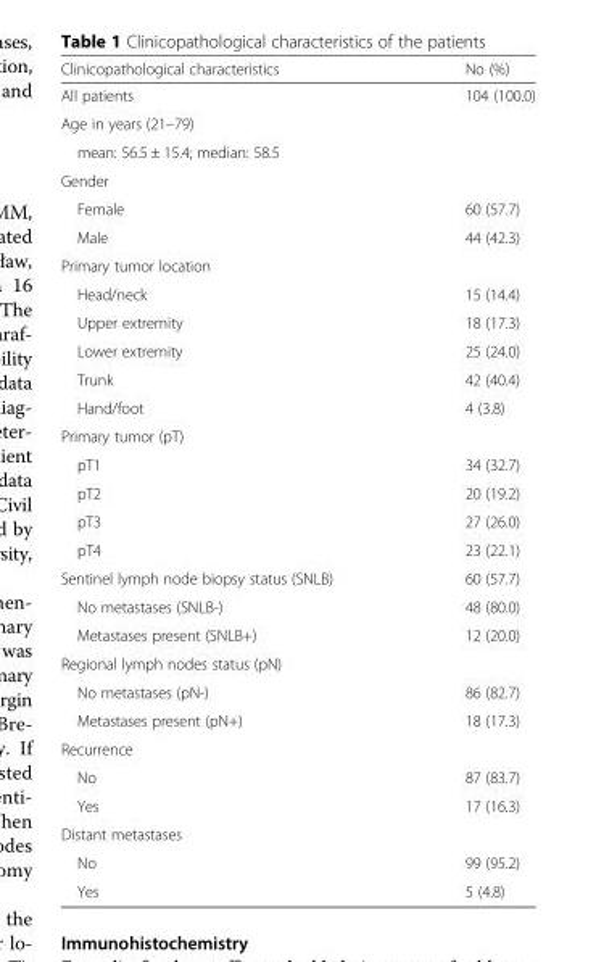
<table><thead><tr><td>Clinicopathological characteristics</td><td>No (%)</td></tr></thead><tbody><tr><td>All patients</td><td>104 (100.0)</td></tr><tr><td colspan="2">Age in years (21–79)</td></tr><tr><td colspan="2">mean: 56.5 ± 15.4; median: 58.5</td></tr><tr><td colspan="2">Gender</td></tr><tr><td>Female</td><td>60 (57.7)</td></tr><tr><td>Male</td><td>44 (42.3)</td></tr><tr><td colspan="2">Primary tumor location</td></tr><tr><td>Head/neck</td><td>15 (14.4)</td></tr><tr><td>Upper extremity</td><td>18 (17.3)</td></tr><tr><td>Lower extremity</td><td>25 (24.0)</td></tr><tr><td>Trunk</td><td>42 (40.4)</td></tr><tr><td>Hand/foot</td><td>4 (3.8)</td></tr><tr><td colspan="2">Primary tumor (pT)</td></tr><tr><td>pT1</td><td>34 (32.7)</td></tr><tr><td>pT2</td><td>20 (19.2)</td></tr><tr><td>pT3</td><td>27 (26.0)</td></tr><tr><td>pT4</td><td>23 (22.1)</td></tr><tr><td>Sentinel lymph node biopsy status (SNLB)</td><td>60 (57.7)</td></tr><tr><td>No metastases (SNLB-)</td><td>48 (80.0)</td></tr><tr><td>Metastases present (SNLB+)</td><td>12 (20.0)</td></tr><tr><td colspan="2">Regional lymph nodes status (pN)</td></tr><tr><td>No metastases (pN-)</td><td>86 (82.7)</td></tr><tr><td>Metastases present (pN+)</td><td>18 (17.3)</td></tr><tr><td colspan="2">Recurrence</td></tr><tr><td>No</td><td>87 (83.7)</td></tr><tr><td>Yes</td><td>17 (16.3)</td></tr><tr><td colspan="2">Distant metastases</td></tr><tr><td>No</td><td>99 (95.2)</td></tr><tr><td>Yes</td><td>5 (4.8)</td></tr></tbody></table>